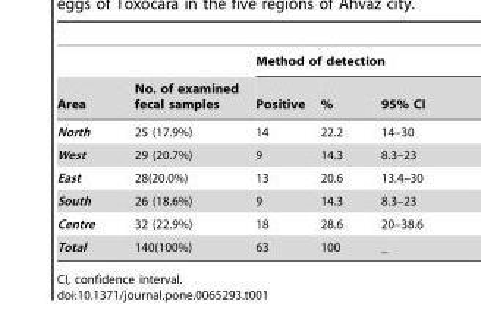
<table><thead><tr><td rowspan="2">Area</td><td rowspan="2">No. of examined fecal samples</td><td colspan="3">Method of detection</td></tr><tr><td>Positive</td><td>%</td><td>95% CI</td></tr></thead><tbody><tr><td>North</td><td>25 (17.9%)</td><td>14</td><td>22.2</td><td>14–30</td></tr><tr><td>West</td><td>29 (20.7%)</td><td>9</td><td>14.3</td><td>8.3–23</td></tr><tr><td>East</td><td>28(20.0%)</td><td>13</td><td>20.6</td><td>13.4–30</td></tr><tr><td>South</td><td>26 (18.6%)</td><td>9</td><td>14.3</td><td>8.3–23</td></tr><tr><td>Centre</td><td>32 (22.9%)</td><td>18</td><td>28.6</td><td>20–38.6</td></tr><tr><td>Total</td><td>140(100%)</td><td>63</td><td>100</td><td>_</td></tr></tbody></table>